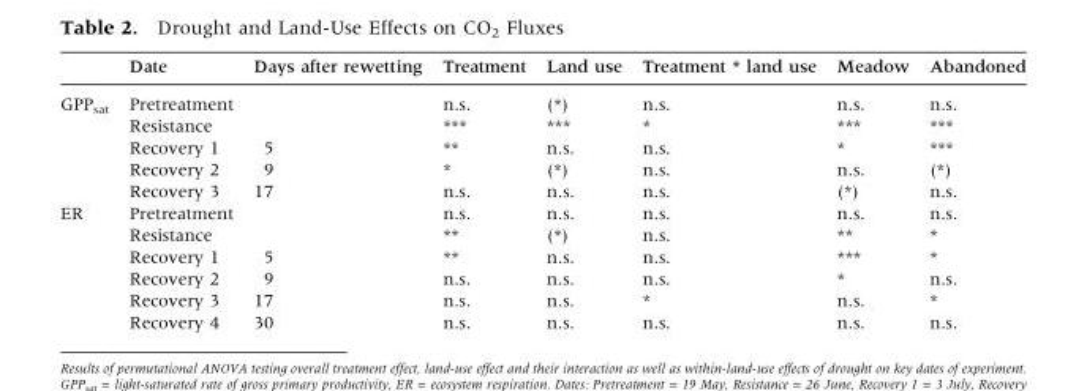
<table><thead><tr><td></td><td>Date</td><td>Days after rewetting</td><td>Treatment</td><td>Land use</td><td>Treatment * land use</td><td>Meadow</td><td>Abandoned</td></tr></thead><tbody><tr><td rowspan="5">GPP<sub>sat</sub></td><td>Pretreatment</td><td></td><td>n.s.</td><td>(*)</td><td>n.s.</td><td>n.s.</td><td>n.s.</td></tr><tr><td>Resistance</td><td></td><td>***</td><td>***</td><td>*</td><td>***</td><td>***</td></tr><tr><td>Recovery 1</td><td>5</td><td>**</td><td>n.s.</td><td>n.s.</td><td>*</td><td>***</td></tr><tr><td>Recovery 2</td><td>9</td><td>*</td><td>(*)</td><td>n.s.</td><td>n.s.</td><td>(*)</td></tr><tr><td>Recovery 3</td><td>17</td><td>n.s.</td><td>n.s.</td><td>n.s.</td><td>(*)</td><td>n.s.</td></tr><tr><td rowspan="6">ER</td><td>Pretreatment</td><td></td><td>n.s.</td><td>n.s.</td><td>n.s.</td><td>n.s.</td><td>n.s.</td></tr><tr><td>Resistance</td><td></td><td>**</td><td>(*)</td><td>n.s.</td><td>**</td><td>*</td></tr><tr><td>Recovery 1</td><td>5</td><td>**</td><td>n.s.</td><td>n.s.</td><td>***</td><td>*</td></tr><tr><td>Recovery 2</td><td>9</td><td>n.s.</td><td>n.s.</td><td>n.s.</td><td>*</td><td>n.s.</td></tr><tr><td>Recovery 3</td><td>17</td><td>n.s.</td><td>n.s.</td><td>*</td><td>n.s.</td><td>*</td></tr><tr><td>Recovery 4</td><td>30</td><td>n.s.</td><td>n.s.</td><td>n.s.</td><td>n.s.</td><td>n.s.</td></tr></tbody></table>